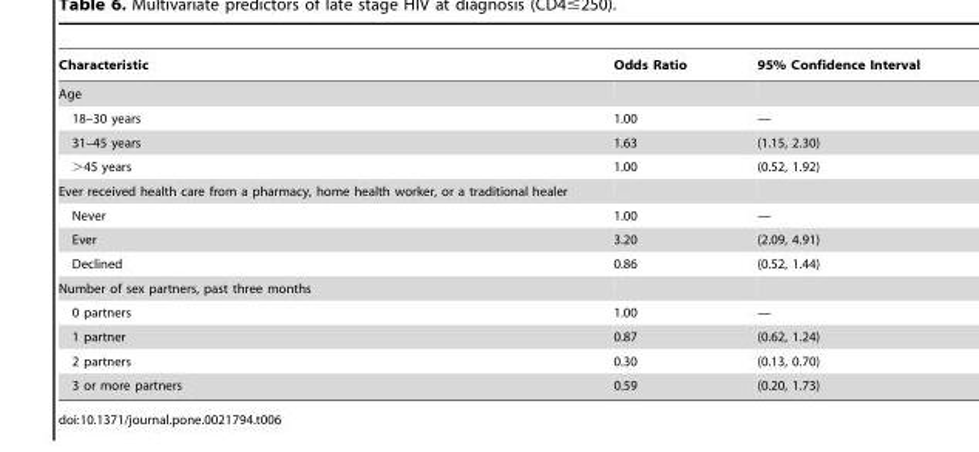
<table><thead><tr><td>Characteristic</td><td>Odds Ratio</td><td>95% Confidence Interval</td></tr></thead><tbody><tr><td colspan="3">Age</td></tr><tr><td>18–30 years</td><td>1.00</td><td>—</td></tr><tr><td>31–45 years</td><td>1.63</td><td>(1.15, 2.30)</td></tr><tr><td>&gt;45 years</td><td>1.00</td><td>(0.52, 1.92)</td></tr><tr><td colspan="3">Ever received health care from a pharmacy, home health worker, or a traditional healer</td></tr><tr><td>Never</td><td>1.00</td><td>—</td></tr><tr><td>Ever</td><td>3.20</td><td>(2.09, 4.91)</td></tr><tr><td>Declined</td><td>0.86</td><td>(0.52, 1.44)</td></tr><tr><td colspan="3">Number of sex partners, past three months</td></tr><tr><td>0 partners</td><td>1.00</td><td>—</td></tr><tr><td>1 partner</td><td>0.87</td><td>(0.62, 1.24)</td></tr><tr><td>2 partners</td><td>0.30</td><td>(0.13, 0.70)</td></tr><tr><td>3 or more partners</td><td>0.59</td><td>(0.20, 1.73)</td></tr></tbody></table>